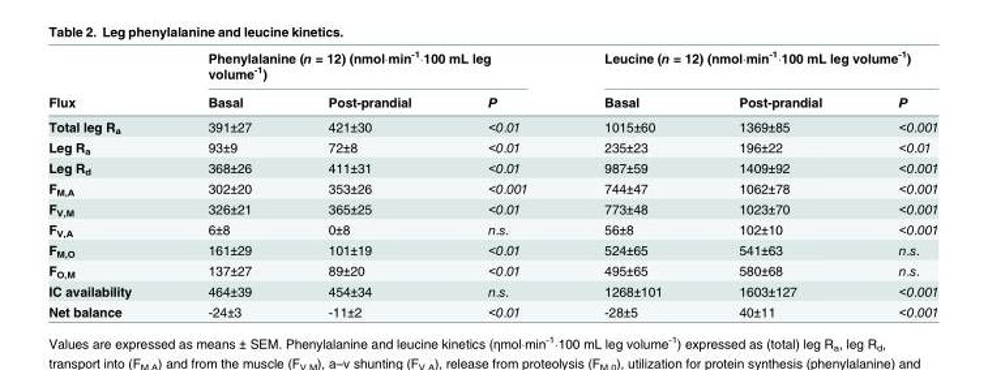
<table><thead><tr><td rowspan="2">Flux</td><td colspan="3">Phenylalanine (n = 12) (nmol·min<sup>-1</sup>·100 mL leg volume<sup>-1</sup>)</td><td colspan="3">Leucine (n = 12) (nmol·min<sup>-1</sup>·100 mL leg volume<sup>-1</sup>)</td></tr><tr><td>Basal</td><td>Post-prandial</td><td>P</td><td>Basal</td><td>Post-prandial</td><td>P</td></tr></thead><tbody><tr><td>Total leg R<sub>a</sub></td><td>391±27</td><td>421±30</td><td>&lt;0.01</td><td>1015±60</td><td>1369±85</td><td>&lt;0.001</td></tr><tr><td>Leg R<sub>a</sub></td><td>93±9</td><td>72±8</td><td>&lt;0.01</td><td>235±23</td><td>196±22</td><td>&lt;0.01</td></tr><tr><td>Leg R<sub>d</sub></td><td>368±26</td><td>411±31</td><td>&lt;0.01</td><td>987±59</td><td>1409±92</td><td>&lt;0.001</td></tr><tr><td>F<sub>M,A</sub></td><td>302±20</td><td>353±26</td><td>&lt;0.001</td><td>744±47</td><td>1062±78</td><td>&lt;0.001</td></tr><tr><td>F<sub>V,M</sub></td><td>326±21</td><td>365±25</td><td>&lt;0.01</td><td>773±48</td><td>1023±70</td><td>&lt;0.001</td></tr><tr><td>F<sub>V,A</sub></td><td>6±8</td><td>0±8</td><td>n.s.</td><td>56±8</td><td>102±10</td><td>&lt;0.001</td></tr><tr><td>F<sub>M,O</sub></td><td>161±29</td><td>101±19</td><td>&lt;0.01</td><td>524±65</td><td>541±63</td><td>n.s.</td></tr><tr><td>F<sub>O,M</sub></td><td>137±27</td><td>89±20</td><td>&lt;0.01</td><td>495±65</td><td>580±68</td><td>n.s.</td></tr><tr><td>IC availability</td><td>464±39</td><td>454±34</td><td>n.s.</td><td>1268±101</td><td>1603±127</td><td>&lt;0.001</td></tr><tr><td>Net balance</td><td>-24±3</td><td>-11±2</td><td>&lt;0.01</td><td>-28±5</td><td>40±11</td><td>&lt;0.001</td></tr></tbody></table>